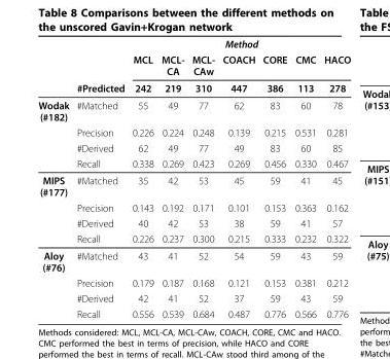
<table><thead><tr><td rowspan="3"></td><td rowspan="3">#Predicted</td><td colspan="7">Method</td></tr><tr><td rowspan="2">MCL 242</td><td rowspan="2">MCL- CA 219</td><td rowspan="2">MCL- CAw 310</td><td rowspan="2">COACH 447</td><td rowspan="2">CORE 386</td><td rowspan="2">CMC 113</td><td rowspan="2">HACO 278</td></tr><tr></tr></thead><tbody><tr><td rowspan="4">Wodak (#182)</td><td>#Matched</td><td>55</td><td>49</td><td>77</td><td>62</td><td>83</td><td>60</td><td>78</td></tr><tr><td>Precision</td><td>0.226</td><td>0.224</td><td>0.248</td><td>0.139</td><td>0.215</td><td>0.531</td><td>0.281</td></tr><tr><td>#Derived</td><td>62</td><td>49</td><td>77</td><td>49</td><td>83</td><td>60</td><td>85</td></tr><tr><td>Recall</td><td>0.338</td><td>0.269</td><td>0.423</td><td>0.269</td><td>0.456</td><td>0.330</td><td>0.467</td></tr><tr><td rowspan="4">MIPS (#177)</td><td>#Matched</td><td>35</td><td>42</td><td>53</td><td>45</td><td>59</td><td>41</td><td>45</td></tr><tr><td>Precision</td><td>0.143</td><td>0.192</td><td>0.171</td><td>0.101</td><td>0.153</td><td>0.363</td><td>0.162</td></tr><tr><td>#Derived</td><td>40</td><td>42</td><td>53</td><td>38</td><td>59</td><td>41</td><td>57</td></tr><tr><td>Recall</td><td>0.226</td><td>0.237</td><td>0.300</td><td>0.215</td><td>0.333</td><td>0.232</td><td>0.322</td></tr><tr><td rowspan="4">Aloy (#76)</td><td>#Matched</td><td>43</td><td>41</td><td>52</td><td>54</td><td>59</td><td>43</td><td>59</td></tr><tr><td>Precision</td><td>0.179</td><td>0.187</td><td>0.168</td><td>0.121</td><td>0.153</td><td>0.381</td><td>0.212</td></tr><tr><td>#Derived</td><td>42</td><td>41</td><td>52</td><td>37</td><td>59</td><td>43</td><td>59</td></tr><tr><td>Recall</td><td>0.556</td><td>0.539</td><td>0.684</td><td>0.487</td><td>0.776</td><td>0.566</td><td>0.776</td></tr></tbody></table>